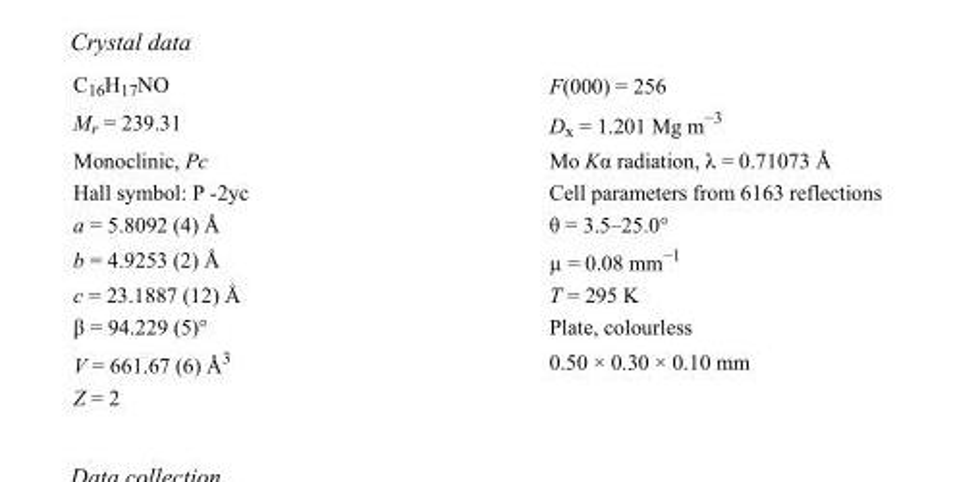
<table><tbody><tr><td>C<sub>16</sub>H<sub>17</sub>NO</td><td>F(000) = 256</td></tr><tr><td>M<sub>r</sub> = 239.31</td><td>D<sub>x</sub> = 1.201 Mg m<sup>−3</sup></td></tr><tr><td>Monoclinic, Pc</td><td>Mo Kα radiation, λ = 0.71073 Å</td></tr><tr><td>Hall symbol: P -2yc</td><td>Cell parameters from 6163 reflections</td></tr><tr><td>a = 5.8092 (4) Å</td><td>θ = 3.5–25.0°</td></tr><tr><td>b = 4.9253 (2) Å</td><td>µ = 0.08 mm<sup>−1</sup></td></tr><tr><td>c = 23.1887 (12) Å</td><td>T = 295 K</td></tr><tr><td>β = 94.229 (5)°</td><td>Plate, colourless</td></tr><tr><td>V = 661.67 (6) Å<sup>3</sup></td><td>0.50 × 0.30 × 0.10 mm</td></tr><tr><td>Z = 2</td><td></td></tr></tbody></table>